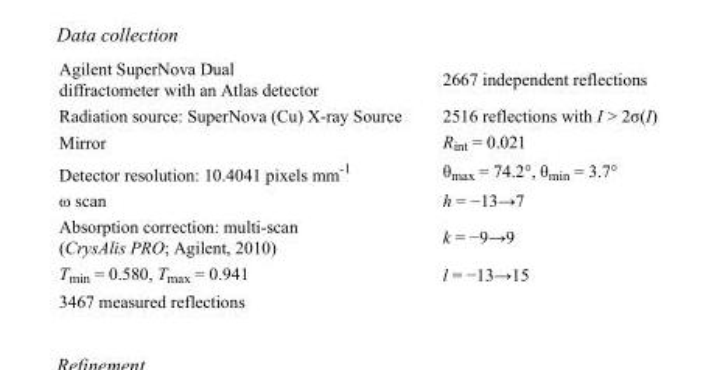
<table><tbody><tr><td>Agilent SuperNova Dual diffractometer with an Atlas detector</td><td>2667 independent reflections</td></tr><tr><td>Radiation source: SuperNova (Cu) X-ray Source</td><td>2516 reflections with I &gt; 2σ(I)</td></tr><tr><td>Mirror</td><td>R<sub>int</sub> = 0.021</td></tr><tr><td>Detector resolution: 10.4041 pixels mm<sup>-1</sup></td><td>θ<sub>max</sub> = 74.2°, θ<sub>min</sub> = 3.7°</td></tr><tr><td>ω scan</td><td>h = −13→7</td></tr><tr><td>Absorption correction: multi-scan (CrysAlis PRO; Agilent, 2010)</td><td>k = −9→9</td></tr><tr><td>T<sub>min</sub> = 0.580, T<sub>max</sub> = 0.941</td><td>l = −13→15</td></tr><tr><td>3467 measured reflections</td><td></td></tr></tbody></table>